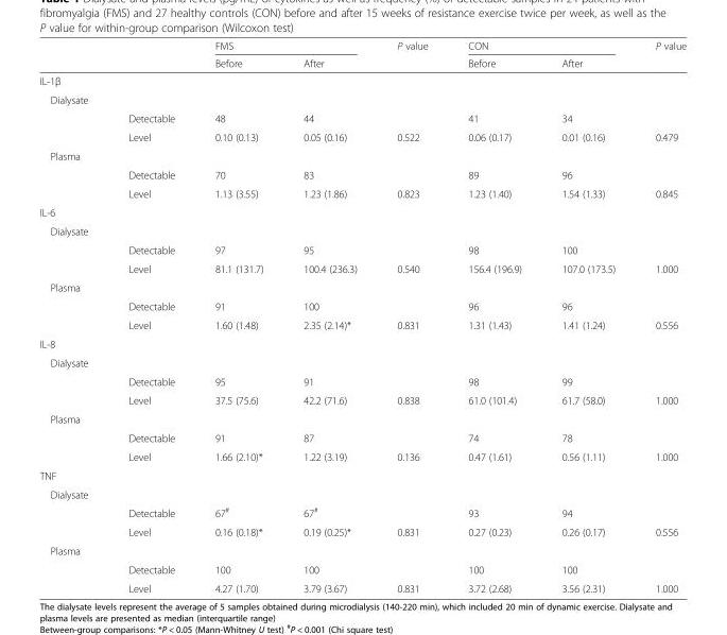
<table><thead><tr><td rowspan="2"></td><td rowspan="2"></td><td colspan="2">FMS</td><td rowspan="2">P value</td><td colspan="2">CON</td><td rowspan="2">P value</td></tr><tr><td>Before</td><td>After</td><td>Before</td><td>After</td></tr></thead><tbody><tr><td colspan="8">IL-1β</td></tr><tr><td colspan="8">Dialysate</td></tr><tr><td></td><td>Detectable</td><td>48</td><td>44</td><td></td><td>41</td><td>34</td><td></td></tr><tr><td></td><td>Level</td><td>0.10 (0.13)</td><td>0.05 (0.16)</td><td>0.522</td><td>0.06 (0.17)</td><td>0.01 (0.16)</td><td>0.479</td></tr><tr><td colspan="8">Plasma</td></tr><tr><td></td><td>Detectable</td><td>70</td><td>83</td><td></td><td>89</td><td>96</td><td></td></tr><tr><td></td><td>Level</td><td>1.13 (3.55)</td><td>1.23 (1.86)</td><td>0.823</td><td>1.23 (1.40)</td><td>1.54 (1.33)</td><td>0.845</td></tr><tr><td colspan="8">IL-6</td></tr><tr><td colspan="8">Dialysate</td></tr><tr><td></td><td>Detectable</td><td>97</td><td>95</td><td></td><td>98</td><td>100</td><td></td></tr><tr><td></td><td>Level</td><td>81.1 (131.7)</td><td>100.4 (236.3)</td><td>0.540</td><td>156.4 (196.9)</td><td>107.0 (173.5)</td><td>1.000</td></tr><tr><td colspan="8">Plasma</td></tr><tr><td></td><td>Detectable</td><td>91</td><td>100</td><td></td><td>96</td><td>96</td><td></td></tr><tr><td></td><td>Level</td><td>1.60 (1.48)</td><td>2.35 (2.14)*</td><td>0.831</td><td>1.31 (1.43)</td><td>1.41 (1.24)</td><td>0.556</td></tr><tr><td colspan="8">IL-8</td></tr><tr><td colspan="8">Dialysate</td></tr><tr><td></td><td>Detectable</td><td>95</td><td>91</td><td></td><td>98</td><td>99</td><td></td></tr><tr><td></td><td>Level</td><td>37.5 (75.6)</td><td>42.2 (71.6)</td><td>0.838</td><td>61.0 (101.4)</td><td>61.7 (58.0)</td><td>1.000</td></tr><tr><td colspan="8">Plasma</td></tr><tr><td></td><td>Detectable</td><td>91</td><td>87</td><td></td><td>74</td><td>78</td><td></td></tr><tr><td></td><td>Level</td><td>1.66 (2.10)*</td><td>1.22 (3.19)</td><td>0.136</td><td>0.47 (1.61)</td><td>0.56 (1.11)</td><td>1.000</td></tr><tr><td colspan="8">TNF</td></tr><tr><td colspan="8">Dialysate</td></tr><tr><td></td><td>Detectable</td><td>67<sup>#</sup></td><td>67<sup>#</sup></td><td></td><td>93</td><td>94</td><td></td></tr><tr><td></td><td>Level</td><td>0.16 (0.18)*</td><td>0.19 (0.25)*</td><td>0.831</td><td>0.27 (0.23)</td><td>0.26 (0.17)</td><td>0.556</td></tr><tr><td colspan="8">Plasma</td></tr><tr><td></td><td>Detectable</td><td>100</td><td>100</td><td></td><td>100</td><td>100</td><td></td></tr><tr><td></td><td>Level</td><td>4.27 (1.70)</td><td>3.79 (3.67)</td><td>0.831</td><td>3.72 (2.68)</td><td>3.56 (2.31)</td><td>1.000</td></tr></tbody></table>